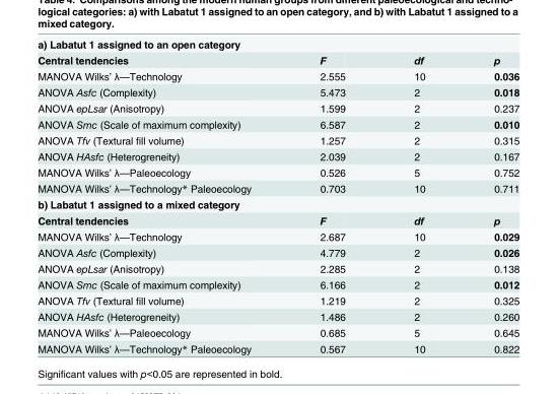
<table><tbody><tr><td colspan="4">a) Labatut 1 assigned to an open category</td></tr><tr><td>Central tendencies</td><td>F</td><td>df</td><td>p</td></tr><tr><td>MANOVA Wilks’ λ—Technology</td><td>2.555</td><td>10</td><td>0.036</td></tr><tr><td>ANOVA Asfc (Complexity)</td><td>5.473</td><td>2</td><td>0.018</td></tr><tr><td>ANOVA epLsar (Anisotropy)</td><td>1.599</td><td>2</td><td>0.237</td></tr><tr><td>ANOVA Smc (Scale of maximum complexity)</td><td>6.587</td><td>2</td><td>0.010</td></tr><tr><td>ANOVA Tfv (Textural fill volume)</td><td>1.257</td><td>2</td><td>0.315</td></tr><tr><td>ANOVA HAsfc (Heterogreneity)</td><td>2.039</td><td>2</td><td>0.167</td></tr><tr><td>MANOVA Wilks’ λ—Paleoecology</td><td>0.526</td><td>5</td><td>0.752</td></tr><tr><td>MANOVA Wilks’ λ—Technology* Paleoecology</td><td>0.703</td><td>10</td><td>0.711</td></tr><tr><td colspan="4">b) Labatut 1 assigned to a mixed category</td></tr><tr><td>Central tendencies</td><td>F</td><td>df</td><td>p</td></tr><tr><td>MANOVA Wilks’ λ—Technology</td><td>2.687</td><td>10</td><td>0.029</td></tr><tr><td>ANOVA Asfc (Complexity)</td><td>4.779</td><td>2</td><td>0.026</td></tr><tr><td>ANOVA epLsar (Anisotropy)</td><td>2.285</td><td>2</td><td>0.138</td></tr><tr><td>ANOVA Smc (Scale of maximum complexity)</td><td>6.166</td><td>2</td><td>0.012</td></tr><tr><td>ANOVA Tfv (Textural fill volume)</td><td>1.219</td><td>2</td><td>0.325</td></tr><tr><td>ANOVA HAsfc (Heterogreneity)</td><td>1.486</td><td>2</td><td>0.260</td></tr><tr><td>MANOVA Wilks’ λ—Paleoecology</td><td>0.685</td><td>5</td><td>0.645</td></tr><tr><td>MANOVA Wilks’ λ—Technology* Paleoecology</td><td>0.567</td><td>10</td><td>0.822</td></tr></tbody></table>